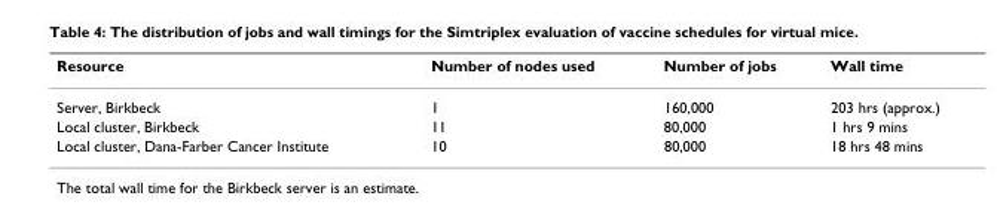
<table><thead><tr><td>Resource</td><td>Number of nodes used</td><td>Number of jobs</td><td>Wall time</td></tr></thead><tbody><tr><td>Server, Birkbeck</td><td>1</td><td>160,000</td><td>203 hrs (approx.)</td></tr><tr><td>Local cluster, Birkbeck</td><td>11</td><td>80,000</td><td>1 hrs 9 mins</td></tr><tr><td>Local cluster, Dana-Farber Cancer Institute</td><td>10</td><td>80,000</td><td>18 hrs 48 mins</td></tr></tbody></table>